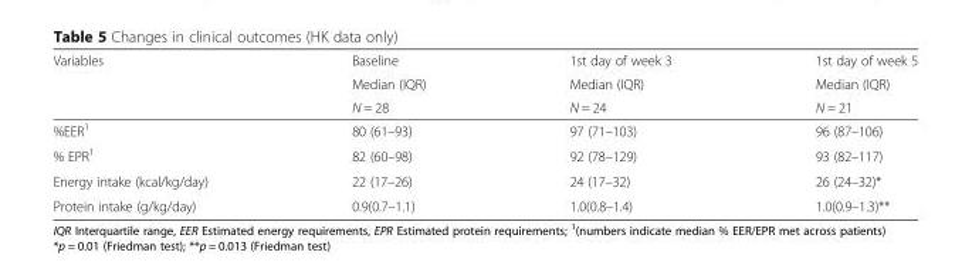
<table><thead><tr><td rowspan="3">Variables</td><td rowspan="3">Baseline Median (IQR) N = 28</td><td rowspan="3">1st day of week 3 Median (IQR) N = 24</td><td rowspan="3">1st day of week 5 Median (IQR) N = 21</td></tr><tr></tr><tr></tr></thead><tbody><tr><td>%EER<sup>1</sup></td><td>80 (61–93)</td><td>97 (71–103)</td><td>96 (87–106)</td></tr><tr><td>% EPR<sup>1</sup></td><td>82 (60–98)</td><td>92 (78–129)</td><td>93 (82–117)</td></tr><tr><td>Energy intake (kcal/kg/day)</td><td>22 (17–26)</td><td>24 (17–32)</td><td>26 (24–32)*</td></tr><tr><td>Protein intake (g/kg/day)</td><td>0.9(0.7–1.1)</td><td>1.0(0.8–1.4)</td><td>1.0(0.9–1.3)**</td></tr></tbody></table>